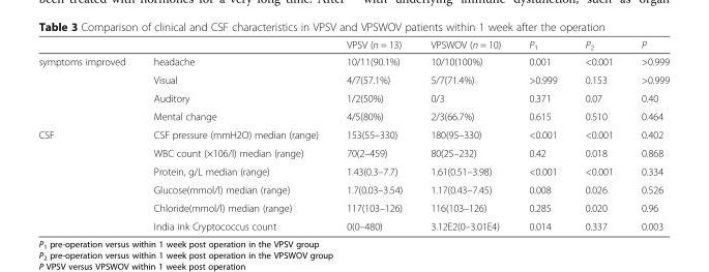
<table><thead><tr><td></td><td></td><td>VPSV (n = 13)</td><td>VPSWOV (n = 10)</td><td>P<sub>1</sub></td><td>P<sub>2</sub></td><td>P</td></tr></thead><tbody><tr><td rowspan="4">symptoms improved</td><td>headache</td><td>10/11(90.1%)</td><td>10/10(100%)</td><td>0.001</td><td>&lt;0.001</td><td>&gt;0.999</td></tr><tr><td>Visual</td><td>4/7(57.1%)</td><td>5/7(71.4%)</td><td>&gt;0.999</td><td>0.153</td><td>&gt;0.999</td></tr><tr><td>Auditory</td><td>1/2(50%)</td><td>0/3</td><td>0.371</td><td>0.07</td><td>0.40</td></tr><tr><td>Mental change</td><td>4/5(80%)</td><td>2/3(66.7%)</td><td>0.615</td><td>0.510</td><td>0.464</td></tr><tr><td rowspan="6">CSF</td><td>CSF pressure (mmH2O) median (range)</td><td>153(55–330)</td><td>180(95–330)</td><td>&lt;0.001</td><td>&lt;0.001</td><td>0.402</td></tr><tr><td>WBC count (×106/l) median (range)</td><td>70(2–459)</td><td>80(25–232)</td><td>0.42</td><td>0.018</td><td>0.868</td></tr><tr><td>Protein, g/L median (range)</td><td>1.43(0.3–7.7)</td><td>1.61(0.51–3.98)</td><td>&lt;0.001</td><td>&lt;0.001</td><td>0.334</td></tr><tr><td>Glucose(mmol/l) median (range)</td><td>1.7(0.03–3.54)</td><td>1.17(0.43–7.45)</td><td>0.008</td><td>0.026</td><td>0.526</td></tr><tr><td>Chloride(mmol/l) median (range)</td><td>117(103–126)</td><td>116(103–126)</td><td>0.285</td><td>0.020</td><td>0.96</td></tr><tr><td>India ink Cryptococcus count</td><td>0(0–480)</td><td>3.12E2(0–3.01E4)</td><td>0.014</td><td>0.337</td><td>0.003</td></tr></tbody></table>